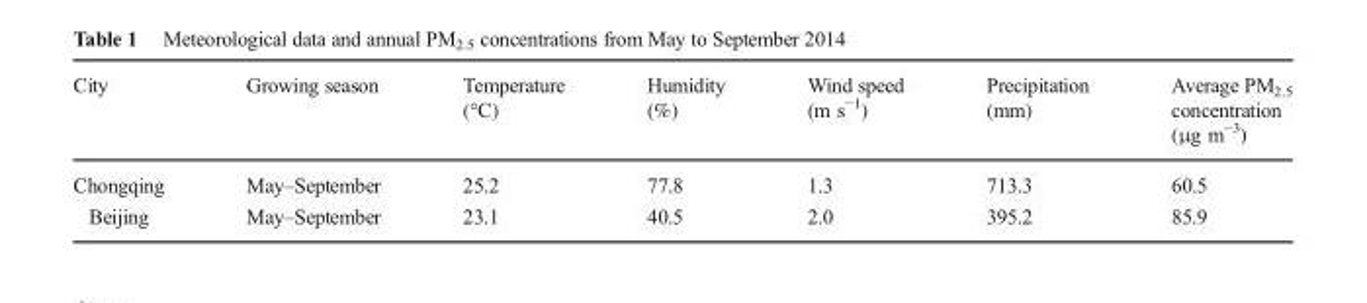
<table><thead><tr><td>City</td><td>Growing season</td><td>Temperature (°C)</td><td>Humidity (%)</td><td>Wind speed (m s<sup>−1</sup>)</td><td>Precipitation (mm)</td><td>Average PM<sub>2.5</sub> concentration (μg m<sup>−3</sup>)</td></tr></thead><tbody><tr><td>Chongqing</td><td>May–September</td><td>25.2</td><td>77.8</td><td>1.3</td><td>713.3</td><td>60.5</td></tr><tr><td>Beijing</td><td>May–September</td><td>23.1</td><td>40.5</td><td>2.0</td><td>395.2</td><td>85.9</td></tr></tbody></table>